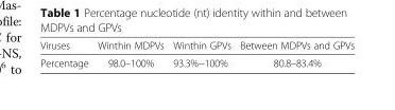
<table><thead><tr><td>Viruses</td><td>Winthin MDPVs</td><td>Winthin GPVs</td><td>Between MDPVs and GPVs</td></tr></thead><tbody><tr><td>Percentage</td><td>98.0–100%</td><td>93.3%--100%</td><td>80.8–83.4%</td></tr></tbody></table>